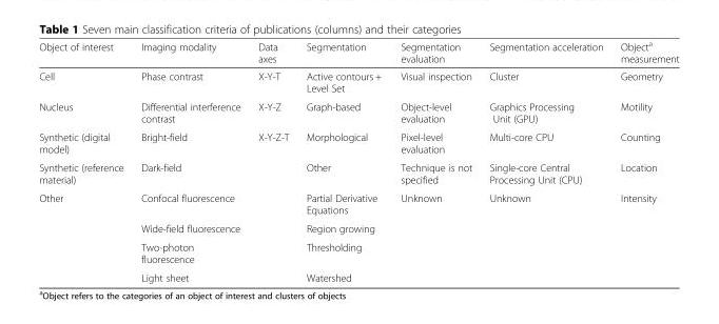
<table><thead><tr><td>Object of interest</td><td>Imaging modality</td><td>Data axes</td><td>Segmentation</td><td>Segmentation evaluation</td><td>Segmentation acceleration</td><td>Object<sup>a</sup> measurement</td></tr></thead><tbody><tr><td>Cell</td><td>Phase contrast</td><td>X-Y-T</td><td>Active contours + Level Set</td><td>Visual inspection</td><td>Cluster</td><td>Geometry</td></tr><tr><td>Nucleus</td><td>Differential interference contrast</td><td>X-Y-Z</td><td>Graph-based</td><td>Object-level evaluation</td><td>Graphics Processing Unit (GPU)</td><td>Motility</td></tr><tr><td>Synthetic (digital model)</td><td>Bright-field</td><td>X-Y-Z-T</td><td>Morphological</td><td>Pixel-level evaluation</td><td>Multi-core CPU</td><td>Counting</td></tr><tr><td>Synthetic (reference material)</td><td>Dark-field</td><td></td><td>Other</td><td>Technique is not specified</td><td>Single-core Central Processing Unit (CPU)</td><td>Location</td></tr><tr><td rowspan="4">Other</td><td>Confocal fluorescence</td><td></td><td>Partial Derivative Equations</td><td>Unknown</td><td>Unknown</td><td>Intensity</td></tr><tr><td>Wide-field fluorescence</td><td></td><td>Region growing</td><td></td><td></td><td></td></tr><tr><td>Two-photon fluorescence</td><td></td><td>Thresholding</td><td></td><td></td><td></td></tr><tr><td>Light sheet</td><td></td><td>Watershed</td><td></td><td></td><td></td></tr></tbody></table>